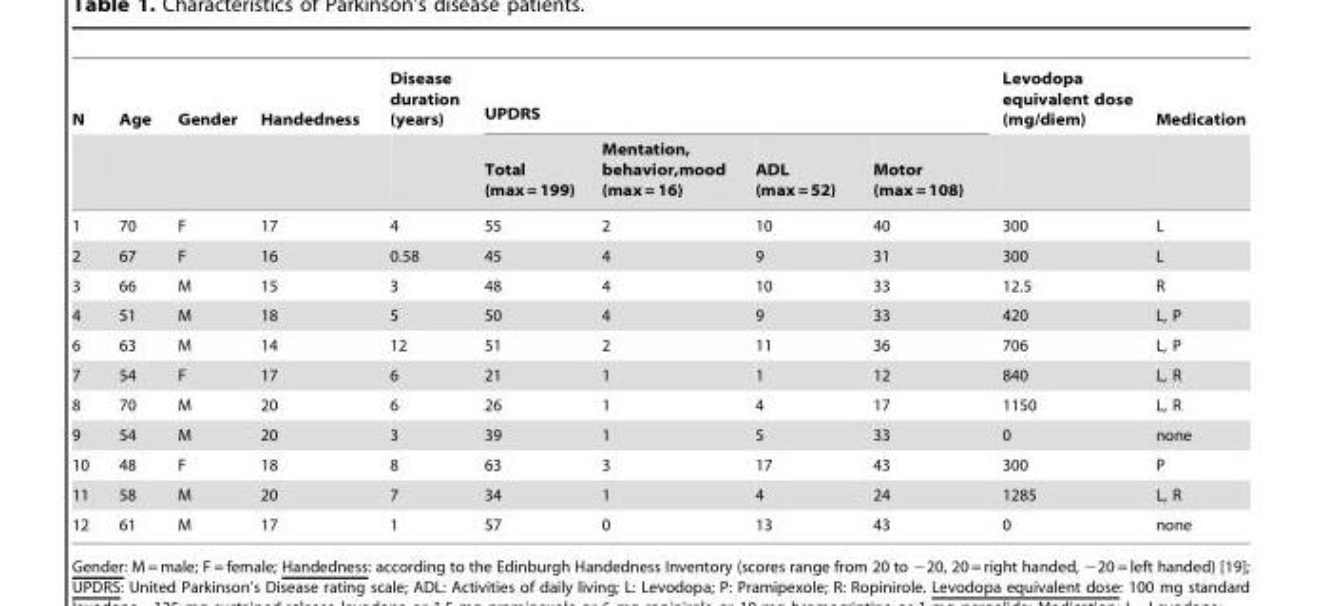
<table><thead><tr><td rowspan="2">N</td><td rowspan="2">Age</td><td rowspan="2">Gender</td><td rowspan="2">Handedness</td><td rowspan="2">Disease duration (years)</td><td colspan="4">UPDRS</td><td rowspan="2">Levodopa equivalent dose (mg/diem)</td><td rowspan="2">Medication</td></tr><tr><td>Total (max = 199)</td><td>Mentation, behavior,mood (max = 16)</td><td>ADL (max = 52)</td><td>Motor (max = 108)</td></tr></thead><tbody><tr><td>1</td><td>70</td><td>F</td><td>17</td><td>4</td><td>55</td><td>2</td><td>10</td><td>40</td><td>300</td><td>L</td></tr><tr><td>2</td><td>67</td><td>F</td><td>16</td><td>0.58</td><td>45</td><td>4</td><td>9</td><td>31</td><td>300</td><td>L</td></tr><tr><td>3</td><td>66</td><td>M</td><td>15</td><td>3</td><td>48</td><td>4</td><td>10</td><td>33</td><td>12.5</td><td>R</td></tr><tr><td>4</td><td>51</td><td>M</td><td>18</td><td>5</td><td>50</td><td>4</td><td>9</td><td>33</td><td>420</td><td>L, P</td></tr><tr><td>6</td><td>63</td><td>M</td><td>14</td><td>12</td><td>51</td><td>2</td><td>11</td><td>36</td><td>706</td><td>L, P</td></tr><tr><td>7</td><td>54</td><td>F</td><td>17</td><td>6</td><td>21</td><td>1</td><td>1</td><td>12</td><td>840</td><td>L, R</td></tr><tr><td>8</td><td>70</td><td>M</td><td>20</td><td>6</td><td>26</td><td>1</td><td>4</td><td>17</td><td>1150</td><td>L, R</td></tr><tr><td>9</td><td>54</td><td>M</td><td>20</td><td>3</td><td>39</td><td>1</td><td>5</td><td>33</td><td>0</td><td>none</td></tr><tr><td>10</td><td>48</td><td>F</td><td>18</td><td>8</td><td>63</td><td>3</td><td>17</td><td>43</td><td>300</td><td>P</td></tr><tr><td>11</td><td>58</td><td>M</td><td>20</td><td>7</td><td>34</td><td>1</td><td>4</td><td>24</td><td>1285</td><td>L, R</td></tr><tr><td>12</td><td>61</td><td>M</td><td>17</td><td>1</td><td>57</td><td>0</td><td>13</td><td>43</td><td>0</td><td>none</td></tr></tbody></table>